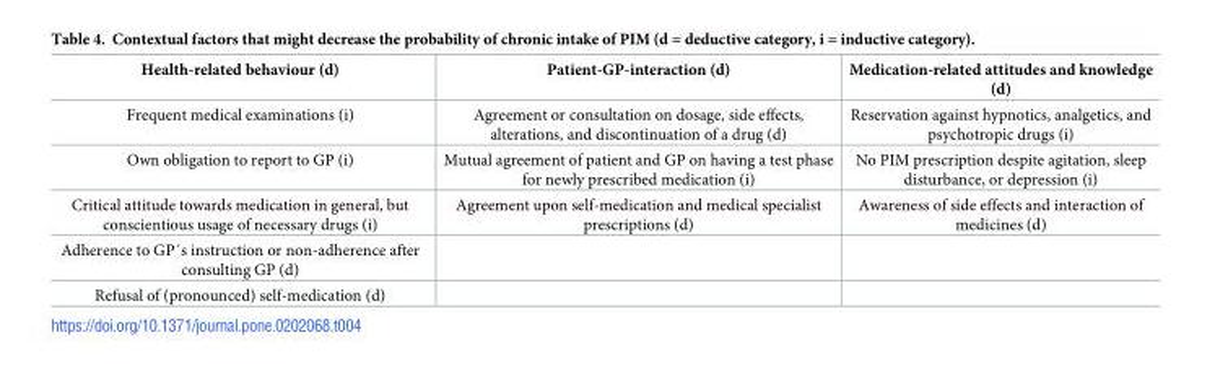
<table><thead><tr><td>Health-related behaviour (d)</td><td>Patient-GP-interaction (d)</td><td>Medication-related attitudes and knowledge (d)</td></tr></thead><tbody><tr><td>Frequent medical examinations (i)</td><td>Agreement or consultation on dosage, side effects, alterations, and discontinuation of a drug (d)</td><td>Reservation against hypnotics, analgetics, and psychotropic drugs (i)</td></tr><tr><td>Own obligation to report to GP (i)</td><td>Mutual agreement of patient and GP on having a test phase for newly prescribed medication (i)</td><td>No PIM prescription despite agitation, sleep disturbance, or depression (i)</td></tr><tr><td>Critical attitude towards medication in general, but conscientious usage of necessary drugs (i)</td><td>Agreement upon self-medication and medical specialist prescriptions (d)</td><td>Awareness of side effects and interaction of medicines (d)</td></tr><tr><td colspan="3">Adherence to GP´s instruction or non-adherence after consulting GP (d)</td></tr><tr><td>Refusal of (pronounced) self-medication (d)</td><td></td><td></td></tr></tbody></table>